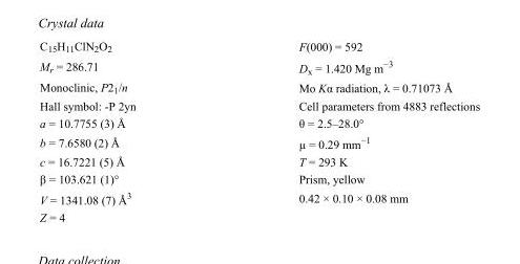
<table><tbody><tr><td>C<sub>15</sub>H<sub>11</sub>ClN<sub>2</sub>O<sub>2</sub></td><td>F(000) = 592</td></tr><tr><td>M<sub>r</sub> = 286.71</td><td>D<sub>x</sub> = 1.420 Mg m<sup>−3</sup></td></tr><tr><td>Monoclinic, P2<sub>1</sub>/n</td><td>Mo Kα radiation, λ = 0.71073 Å</td></tr><tr><td>Hall symbol: -P 2yn</td><td>Cell parameters from 4883 reflections</td></tr><tr><td>a = 10.7755 (3) Å</td><td>θ = 2.5–28.0°</td></tr><tr><td>b = 7.6580 (2) Å</td><td>µ = 0.29 mm<sup>−1</sup></td></tr><tr><td>c = 16.7221 (5) Å</td><td>T = 293 K</td></tr><tr><td>β = 103.621 (1)°</td><td>Prism, yellow</td></tr><tr><td>V = 1341.08 (7) Å<sup>3</sup></td><td>0.42 × 0.10 × 0.08 mm</td></tr><tr><td>Z = 4</td><td></td></tr></tbody></table>